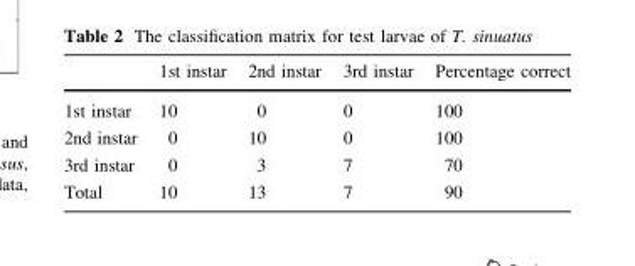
<table><thead><tr><td></td><td>1st instar</td><td>2nd instar</td><td>3rd instar</td><td>Percentage correct</td></tr></thead><tbody><tr><td>1st instar</td><td>10</td><td>0</td><td>0</td><td>100</td></tr><tr><td>2nd instar</td><td>0</td><td>10</td><td>0</td><td>100</td></tr><tr><td>3rd instar</td><td>0</td><td>3</td><td>7</td><td>70</td></tr><tr><td>Total</td><td>10</td><td>13</td><td>7</td><td>90</td></tr></tbody></table>